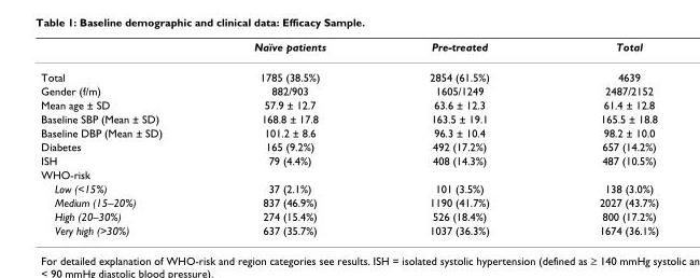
<table><thead><tr><td></td><td>Naïve patients</td><td>Pre-treated</td><td>Total</td></tr></thead><tbody><tr><td>Total</td><td>1785 (38.5%)</td><td>2854 (61.5%)</td><td>4639</td></tr><tr><td>Gender (f/m)</td><td>882/903</td><td>1605/1249</td><td>2487/2152</td></tr><tr><td>Mean age ± SD</td><td>57.9 ± 12.7</td><td>63.6 ± 12.3</td><td>61.4 ± 12.8</td></tr><tr><td>Baseline SBP (Mean ± SD)</td><td>168.8 ± 17.8</td><td>163.5 ± 19.1</td><td>165.5 ± 18.8</td></tr><tr><td>Baseline DBP (Mean ± SD)</td><td>101.2 ± 8.6</td><td>96.3 ± 10.4</td><td>98.2 ± 10.0</td></tr><tr><td>Diabetes</td><td>165 (9.2%)</td><td>492 (17.2%)</td><td>657 (14.2%)</td></tr><tr><td>ISH</td><td>79 (4.4%)</td><td>408 (14.3%)</td><td>487 (10.5%)</td></tr><tr><td colspan="4">WHO-risk</td></tr><tr><td>Low (&lt;15%)</td><td>37 (2.1%)</td><td>101 (3.5%)</td><td>138 (3.0%)</td></tr><tr><td>Medium (15–20%)</td><td>837 (46.9%)</td><td>1190 (41.7%)</td><td>2027 (43.7%)</td></tr><tr><td>High (20–30%)</td><td>274 (15.4%)</td><td>526 (18.4%)</td><td>800 (17.2%)</td></tr><tr><td>Very high (&gt;30%)</td><td>637 (35.7%)</td><td>1037 (36.3%)</td><td>1674 (36.1%)</td></tr></tbody></table>